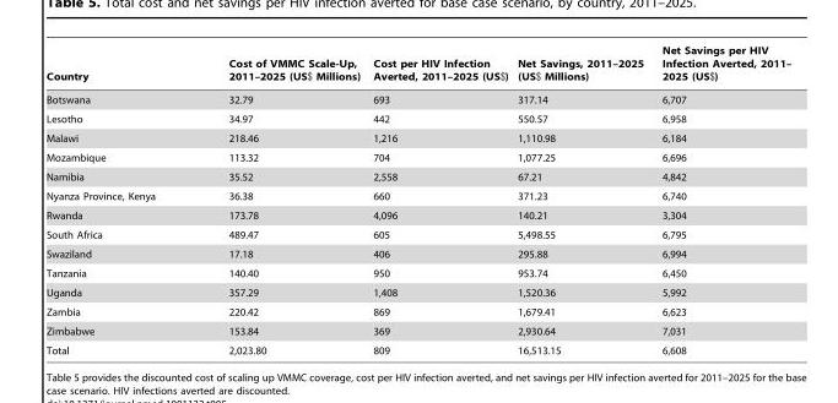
<table><thead><tr><td>Country</td><td>Cost of VMMC Scale-Up, 2011–2025 (US$ Millions)</td><td>Cost per HIV Infection Averted, 2011–2025 (US$)</td><td>Net Savings, 2011–2025 (US$ Millions)</td><td>Net Savings per HIV Infection Averted, 2011– 2025 (US$)</td></tr></thead><tbody><tr><td>Botswana</td><td>32.79</td><td>693</td><td>317.14</td><td>6,707</td></tr><tr><td>Lesotho</td><td>34.97</td><td>442</td><td>550.57</td><td>6,958</td></tr><tr><td>Malawi</td><td>218.46</td><td>1,216</td><td>1,110.98</td><td>6,184</td></tr><tr><td>Mozambique</td><td>113.32</td><td>704</td><td>1,077.25</td><td>6,696</td></tr><tr><td>Namibia</td><td>35.52</td><td>2,558</td><td>67.21</td><td>4,842</td></tr><tr><td>Nyanza Province, Kenya</td><td>36.38</td><td>660</td><td>371.23</td><td>6,740</td></tr><tr><td>Rwanda</td><td>173.78</td><td>4,096</td><td>140.21</td><td>3,304</td></tr><tr><td>South Africa</td><td>489.47</td><td>605</td><td>5,498.55</td><td>6,795</td></tr><tr><td>Swaziland</td><td>17.18</td><td>406</td><td>295.88</td><td>6,994</td></tr><tr><td>Tanzania</td><td>140.40</td><td>950</td><td>953.74</td><td>6,450</td></tr><tr><td>Uganda</td><td>357.29</td><td>1,408</td><td>1,520.36</td><td>5,992</td></tr><tr><td>Zambia</td><td>220.42</td><td>869</td><td>1,679.41</td><td>6,623</td></tr><tr><td>Zimbabwe</td><td>153.84</td><td>369</td><td>2,930.64</td><td>7,031</td></tr><tr><td>Total</td><td>2,023.80</td><td>809</td><td>16,513.15</td><td>6,608</td></tr></tbody></table>